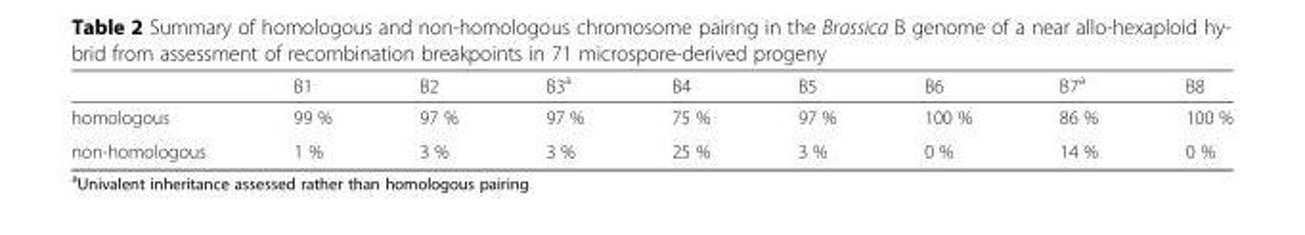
<table><thead><tr><td></td><td>B1</td><td>B2</td><td>B3<sup>a</sup></td><td>B4</td><td>B5</td><td>B6</td><td>B7<sup>a</sup></td><td>B8</td></tr></thead><tbody><tr><td>homologous</td><td>99 %</td><td>97 %</td><td>97 %</td><td>75 %</td><td>97 %</td><td>100 %</td><td>86 %</td><td>100 %</td></tr><tr><td>non-homologous</td><td>1 %</td><td>3 %</td><td>3 %</td><td>25 %</td><td>3 %</td><td>0 %</td><td>14 %</td><td>0 %</td></tr></tbody></table>